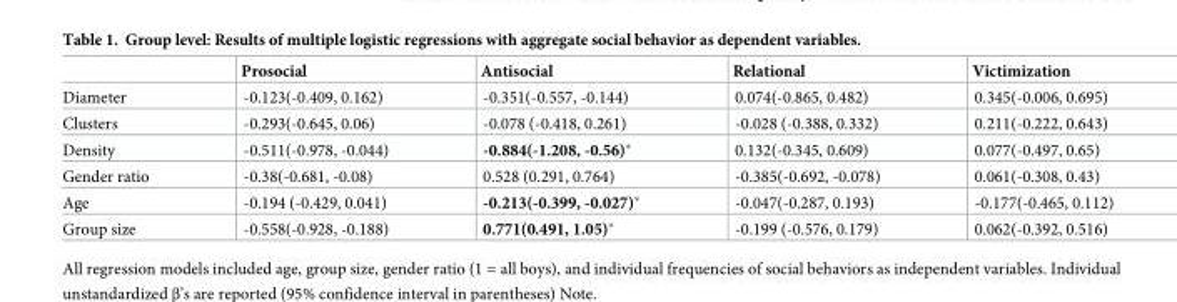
<table><thead><tr><td></td><td>Prosocial</td><td>Antisocial</td><td>Relational</td><td>Victimization</td></tr></thead><tbody><tr><td>Diameter</td><td>-0.123(-0.409, 0.162)</td><td>-0.351(-0.557, -0.144)</td><td>0.074(-0.865, 0.482)</td><td>0.345(-0.006, 0.695)</td></tr><tr><td>Clusters</td><td>-0.293(-0.645, 0.06)</td><td>-0.078 (-0.418, 0.261)</td><td>-0.028 (-0.388, 0.332)</td><td>0.211(-0.222, 0.643)</td></tr><tr><td>Density</td><td>-0.511(-0.978, -0.044)</td><td>-0.884(-1.208, -0.56)*</td><td>0.132(-0.345, 0.609)</td><td>0.077(-0.497, 0.65)</td></tr><tr><td>Gender ratio</td><td>-0.38(-0.681, -0.08)</td><td>0.528 (0.291, 0.764)</td><td>-0.385(-0.692, -0.078)</td><td>0.061(-0.308, 0.43)</td></tr><tr><td>Age</td><td>-0.194 (-0.429, 0.041)</td><td>-0.213(-0.399, -0.027)*</td><td>-0.047(-0.287, 0.193)</td><td>-0.177(-0.465, 0.112)</td></tr><tr><td>Group size</td><td>-0.558(-0.928, -0.188)</td><td>0.771(0.491, 1.05)*</td><td>-0.199 (-0.576, 0.179)</td><td>0.062(-0.392, 0.516)</td></tr></tbody></table>